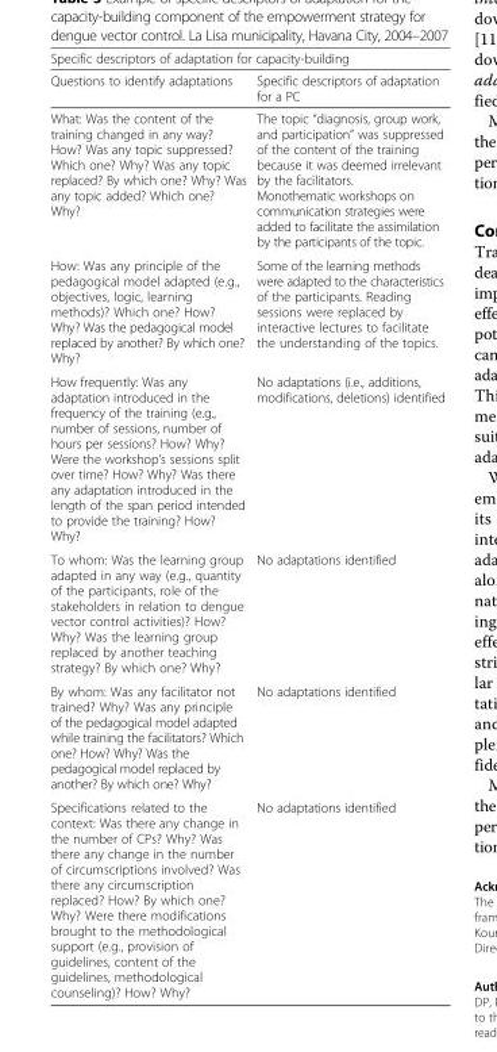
<table><thead><tr><td colspan="2">Specific descriptors of adaptation for capacity-building</td></tr><tr><td>Questions to identify adaptations</td><td>Specific descriptors of adaptation for a PC</td></tr></thead><tbody><tr><td>What: Was the content of the training changed in any way? How? Was any topic suppressed? Which one? Why? Was any topic replaced? By which one? Why? Was any topic added? Which one? Why?</td><td>The topic “diagnosis, group work, and participation” was suppressed of the content of the training because it was deemed irrelevant by the facilitators. Monothematic workshops on communication strategies were added to facilitate the assimilation by the participants of the topic.</td></tr><tr><td>How: Was any principle of the pedagogical model adapted (e.g., objectives, logic, learning methods)? Which one? How? Why? Was the pedagogical model replaced by another? By which one? Why?</td><td>Some of the learning methods were adapted to the characteristics of the participants. Reading sessions were replaced by interactive lectures to facilitate the understanding of the topics.</td></tr><tr><td>How frequently: Was any adaptation introduced in the frequency of the training (e.g., number of sessions, number of hours per sessions? How? Why? Were the workshop’s sessions split over time? How? Why? Was there any adaptation introduced in the length of the span period intended to provide the training? How? Why?</td><td>No adaptations (i.e., additions, modifications, deletions) identified</td></tr><tr><td>To whom: Was the learning group adapted in any way (e.g., quantity of the participants, role of the stakeholders in relation to dengue vector control activities)? How? Why? Was the learning group replaced by another teaching strategy? By which one? Why?</td><td>No adaptations identified</td></tr><tr><td>By whom: Was any facilitator not trained? Why? Was any principle of the pedagogical model adapted while training the facilitators? Which one? How? Why? Was the pedagogical model replaced by another? By which one? Why?</td><td>No adaptations identified</td></tr><tr><td>Specifications related to the context: Was there any change in the number of CPs? Why? Was there any change in the number of circumscriptions involved? Was there any circumscription replaced? How? By which one? Why? Were there modifications brought to the methodological support (e.g., provision of guidelines, content of the guidelines, methodological counseling)? How? Why?</td><td>No adaptations identified</td></tr></tbody></table>